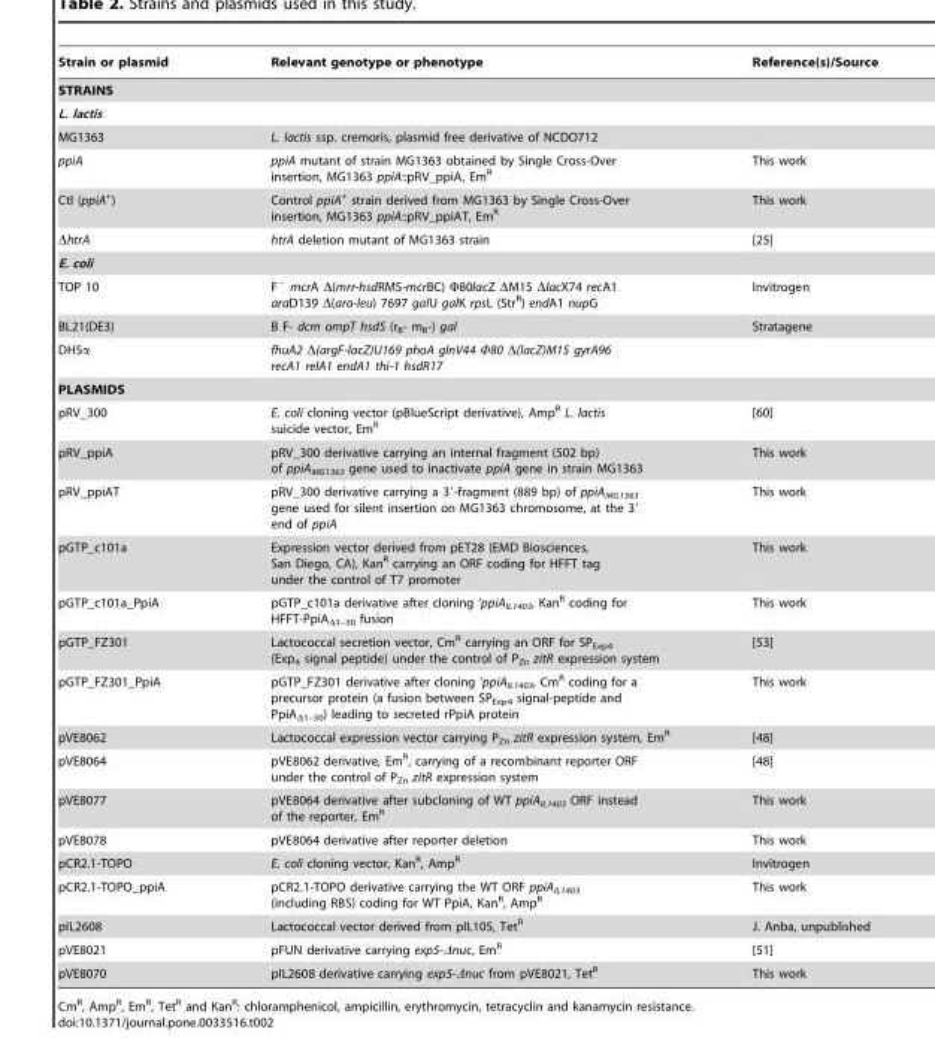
<table><thead><tr><td>Strain or plasmid</td><td>Relevant genotype or phenotype</td><td>Reference(s)/Source</td></tr></thead><tbody><tr><td colspan="3">STRAINS</td></tr><tr><td colspan="3">L. lactis</td></tr><tr><td>MG1363</td><td>L. lactis ssp. cremoris, plasmid free derivative of NCDO712</td><td></td></tr><tr><td>ppiA</td><td>ppiA mutant of strain MG1363 obtained by Single Cross-Over insertion, MG1363 ppiA::pRV_ppiA, Em<sup>R</sup></td><td>This work</td></tr><tr><td>Ctl (ppiA<sup>+</sup>)</td><td>Control ppiA<sup>+</sup> strain derived from MG1363 by Single Cross-Over insertion, MG1363 ppiA::pRV_ppiAT, Em<sup>R</sup></td><td>This work</td></tr><tr><td>ΔhtrA</td><td>htrA deletion mutant of MG1363 strain</td><td>[25]</td></tr><tr><td colspan="3">E. coli</td></tr><tr><td>TOP 10</td><td>F<sup>−</sup> mcrA Δ(mrr-hsdRMS-mcrBC) Φ80lacZ ΔM15 ΔlacX74 recA1 araD139 Δ(ara-leu) 7697 galU galK rpsL (Str<sup>R</sup>) endA1 nupG</td><td>Invitrogen</td></tr><tr><td>BL21(DE3)</td><td>B F- dcm ompT hsdS (r<sub>B</sub>- m<sub>B</sub>-) gal</td><td>Stratagene</td></tr><tr><td>DH5α</td><td>fhuA2 Δ(argF-lacZ)U169 phoA glnV44 Φ80 Δ(lacZ)M15 gyrA96 recA1 relA1 endA1 thi-1 hsdR17</td><td></td></tr><tr><td colspan="3">PLASMIDS</td></tr><tr><td>pRV_300</td><td>E. coli cloning vector (pBlueScript derivative), Amp<sup>R</sup> L. lactis suicide vector, Em<sup>R</sup></td><td>[60]</td></tr><tr><td>pRV_ppiA</td><td>pRV_300 derivative carrying an internal fragment (502 bp) of ppiA<sub>MG1363</sub> gene used to inactivate ppiA gene in strain MG1363</td><td>This work</td></tr><tr><td>pRV_ppiAT</td><td>pRV_300 derivative carrying a 3′-fragment (889 bp) of ppiA<sub>MG1363</sub> gene used for silent insertion on MG1363 chromosome, at the 3′ end of ppiA</td><td>This work</td></tr><tr><td>pGTP_c101a</td><td>Expression vector derived from pET28 (EMD Biosciences, San Diego, CA), Kan<sup>R</sup> carrying an ORF coding for HFFT tag under the control of T7 promoter</td><td>This work</td></tr><tr><td>pGTP_c101a_PpiA</td><td>pGTP_c101a derivative after cloning ‘ppiA<sub>IL1403</sub>, Kan<sup>R</sup> coding for HFFT-PpiA<sub>Δ1–30</sub> fusion</td><td>This work</td></tr><tr><td>pGTP_FZ301</td><td>Lactococcal secretion vector, Cm<sup>R</sup> carrying an ORF for SP<sub>Exp4</sub> (Exp<sub>4</sub> signal peptide) under the control of P<sub>Zn</sub> zitR expression system</td><td>[53]</td></tr><tr><td>pGTP_FZ301_PpiA</td><td>pGTP_FZ301 derivative after cloning ‘ppiA<sub>IL1403</sub>, Cm<sup>R</sup> coding for a precursor protein (a fusion between SP<sub>Exp4</sub> signal-peptide and PpiA<sub>Δ1–30</sub>) leading to secreted rPpiA protein</td><td>This work</td></tr><tr><td>pVE8062</td><td>Lactococcal expression vector carrying P<sub>Zn</sub> zitR expression system, Em<sup>R</sup></td><td>[48]</td></tr><tr><td>pVE8064</td><td>pVE8062 derivative, Em<sup>R</sup>, carrying of a recombinant reporter ORF under the control of P<sub>Zn</sub> zitR expression system</td><td>[48]</td></tr><tr><td>pVE8077</td><td>pVE8064 derivative after subcloning of WT ppiA<sub>IL1403</sub> ORF instead of the reporter, Em<sup>R</sup></td><td>This work</td></tr><tr><td>pVE8078</td><td>pVE8064 derivative after reporter deletion</td><td>This work</td></tr><tr><td>pCR2.1-TOPO</td><td>E. coli cloning vector, Kan<sup>R</sup>, Amp<sup>R</sup></td><td>Invitrogen</td></tr><tr><td>pCR2.1-TOPO_ppiA</td><td>pCR2.1-TOPO derivative carrying the WT ORF ppiA<sub>IL1403</sub> (including RBS) coding for WT PpiA, Kan<sup>R</sup>, Amp<sup>R</sup></td><td>This work</td></tr><tr><td>pIL2608</td><td>Lactococcal vector derived from pIL105, Tet<sup>R</sup></td><td>J. Anba, unpublished</td></tr><tr><td>pVE8021</td><td>pFUN derivative carrying exp5-Δnuc, Em<sup>R</sup></td><td>[51]</td></tr><tr><td>pVE8070</td><td>pIL2608 derivative carrying exp5-Δnuc from pVE8021, Tet<sup>R</sup></td><td>This work</td></tr></tbody></table>